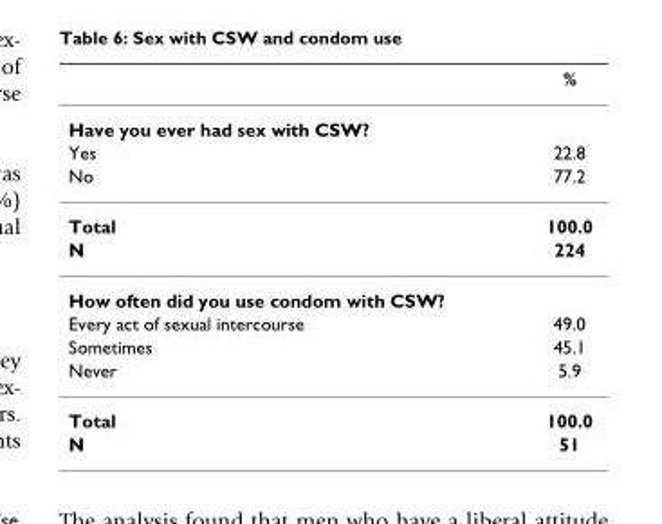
<table><thead><tr><td></td><td>%</td></tr></thead><tbody><tr><td colspan="2">Have you ever had sex with CSW?</td></tr><tr><td>Yes</td><td>22.8</td></tr><tr><td>No</td><td>77.2</td></tr><tr><td>Total</td><td>100.0</td></tr><tr><td>N</td><td>224</td></tr><tr><td colspan="2">How often did you use condom with CSW?</td></tr><tr><td>Every act of sexual intercourse</td><td>49.0</td></tr><tr><td>Sometimes</td><td>45.1</td></tr><tr><td>Never</td><td>5.9</td></tr><tr><td>Total</td><td>100.0</td></tr><tr><td>N</td><td>51</td></tr></tbody></table>